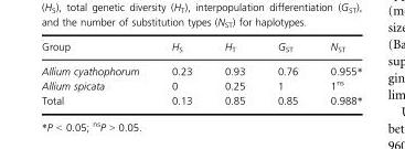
<table><thead><tr><td>Group</td><td>H<sub>S</sub></td><td>H<sub>T</sub></td><td>G<sub>ST</sub></td><td>N<sub>ST</sub></td></tr></thead><tbody><tr><td>Allium cyathophorum</td><td>0.23</td><td>0.93</td><td>0.76</td><td>0.955*</td></tr><tr><td>Allium spicata</td><td>0</td><td>0.25</td><td>1</td><td>1<sup>ns</sup></td></tr><tr><td>Total</td><td>0.13</td><td>0.85</td><td>0.85</td><td>0.988*</td></tr></tbody></table>